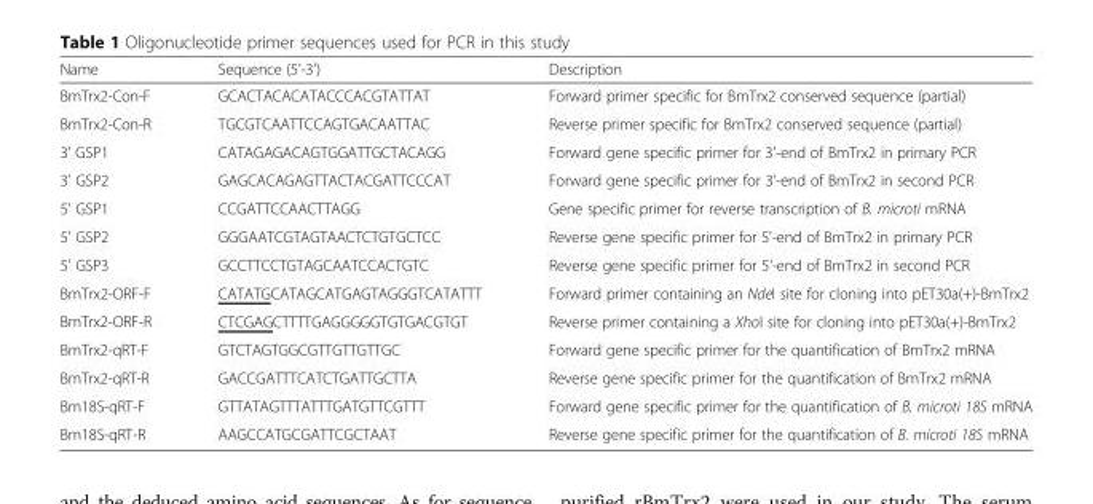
<table><thead><tr><td>Name</td><td>Sequence (5&#x27;-3&#x27;)</td><td>Description</td></tr></thead><tbody><tr><td>BmTrx2-Con-F</td><td>GCACTACACATACCCACGTATTAT</td><td>Forward primer specific for BmTrx2 conserved sequence (partial)</td></tr><tr><td>BmTrx2-Con-R</td><td>TGCGTCAATTCCAGTGACAATTAC</td><td>Reverse primer specific for BmTrx2 conserved sequence (partial)</td></tr><tr><td>3&#x27; GSP1</td><td>CATAGAGACAGTGGATTGCTACAGG</td><td>Forward gene specific primer for 3&#x27;-end of BmTrx2 in primary PCR</td></tr><tr><td>3&#x27; GSP2</td><td>GAGCACAGAGTTACTACGATTCCCAT</td><td>Forward gene specific primer for 3&#x27;-end of BmTrx2 in second PCR</td></tr><tr><td>5&#x27; GSP1</td><td>CCGATTCCAACTTAGG</td><td>Gene specific primer for reverse transcription of B. microti mRNA</td></tr><tr><td>5&#x27; GSP2</td><td>GGGAATCGTAGTAACTCTGTGCTCC</td><td>Reverse gene specific primer for 5&#x27;-end of BmTrx2 in primary PCR</td></tr><tr><td>5&#x27; GSP3</td><td>GCCTTCCTGTAGCAATCCACTGTC</td><td>Reverse gene specific primer for 5&#x27;-end of BmTrx2 in second PCR</td></tr><tr><td>BmTrx2-ORF-F</td><td>CATATGCATAGCATGAGTAGGGTCATATTT</td><td>Forward primer containing an NdeI site for cloning into pET30a(+)-BmTrx2</td></tr><tr><td>BmTrx2-ORF-R</td><td>CTCGAGCTTTTGAGGGGGTGTGACGTGT</td><td>Reverse primer containing a XhoI site for cloning into pET30a(+)-BmTrx2</td></tr><tr><td>BmTrx2-qRT-F</td><td>GTCTAGTGGCGTTGTTGTTGC</td><td>Forward gene specific primer for the quantification of BmTrx2 mRNA</td></tr><tr><td>BmTrx2-qRT-R</td><td>GACCGATTTCATCTGATTGCTTA</td><td>Reverse gene specific primer for the quantification of BmTrx2 mRNA</td></tr><tr><td>Bm18S-qRT-F</td><td>GTTATAGTTTATTTGATGTTCGTTT</td><td>Forward gene specific primer for the quantification of B. microti 18S mRNA</td></tr><tr><td>Bm18S-qRT-R</td><td>AAGCCATGCGATTCGCTAAT</td><td>Reverse gene specific primer for the quantification of B. microti 18S mRNA</td></tr></tbody></table>